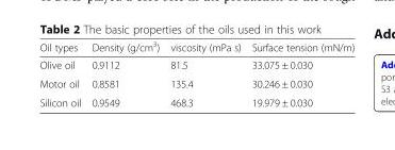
<table><thead><tr><td>Oil types</td><td>Density (g/cm<sup>3</sup>)</td><td>viscosity (mPa s)</td><td>Surface tension (mN/m)</td></tr></thead><tbody><tr><td>Olive oil</td><td>0.9112</td><td>81.5</td><td>33.075 ± 0.030</td></tr><tr><td>Motor oil</td><td>0.8581</td><td>135.4</td><td>30.246 ± 0.030</td></tr><tr><td>Silicon oil</td><td>0.9549</td><td>468.3</td><td>19.979 ± 0.030</td></tr></tbody></table>